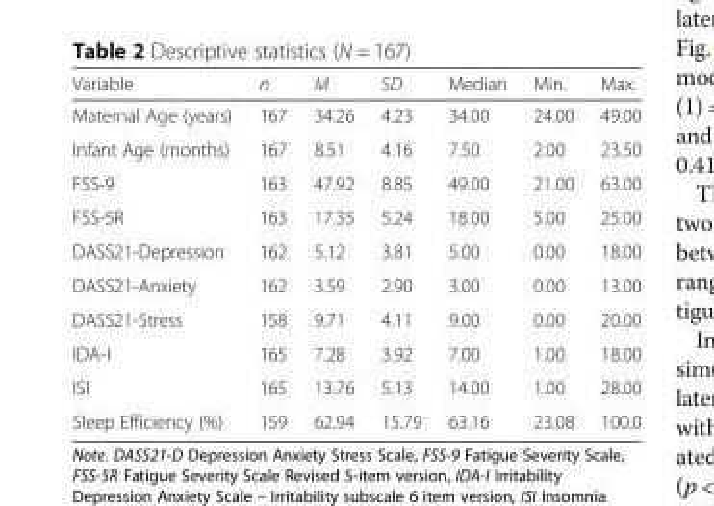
<table><thead><tr><td>Variable</td><td>n</td><td>M</td><td>SD</td><td>Median</td><td>Min.</td><td>Max.</td></tr></thead><tbody><tr><td>Maternal Age (years)</td><td>167</td><td>34.26</td><td>4.23</td><td>34.00</td><td>24.00</td><td>49.00</td></tr><tr><td>Infant Age (months)</td><td>167</td><td>8.51</td><td>4.16</td><td>7.50</td><td>2.00</td><td>23.50</td></tr><tr><td>FSS-9</td><td>163</td><td>47.92</td><td>8.85</td><td>49.00</td><td>21.00</td><td>63.00</td></tr><tr><td>FSS-5R</td><td>163</td><td>17.35</td><td>5.24</td><td>18.00</td><td>5.00</td><td>25.00</td></tr><tr><td>DASS21-Depression</td><td>162</td><td>5.12</td><td>3.81</td><td>5.00</td><td>0.00</td><td>18.00</td></tr><tr><td>DASS21-Anxiety</td><td>162</td><td>3.59</td><td>2.90</td><td>3.00</td><td>0.00</td><td>13.00</td></tr><tr><td>DASS21-Stress</td><td>158</td><td>9.71</td><td>4.11</td><td>9.00</td><td>0.00</td><td>20.00</td></tr><tr><td>IDA-I</td><td>165</td><td>7.28</td><td>3.92</td><td>7.00</td><td>1.00</td><td>18.00</td></tr><tr><td>ISI</td><td>165</td><td>13.76</td><td>5.13</td><td>14.00</td><td>1.00</td><td>28.00</td></tr><tr><td>Sleep Efficiency (%)</td><td>159</td><td>62.94</td><td>15.79</td><td>63.16</td><td>23.08</td><td>100.0</td></tr></tbody></table>